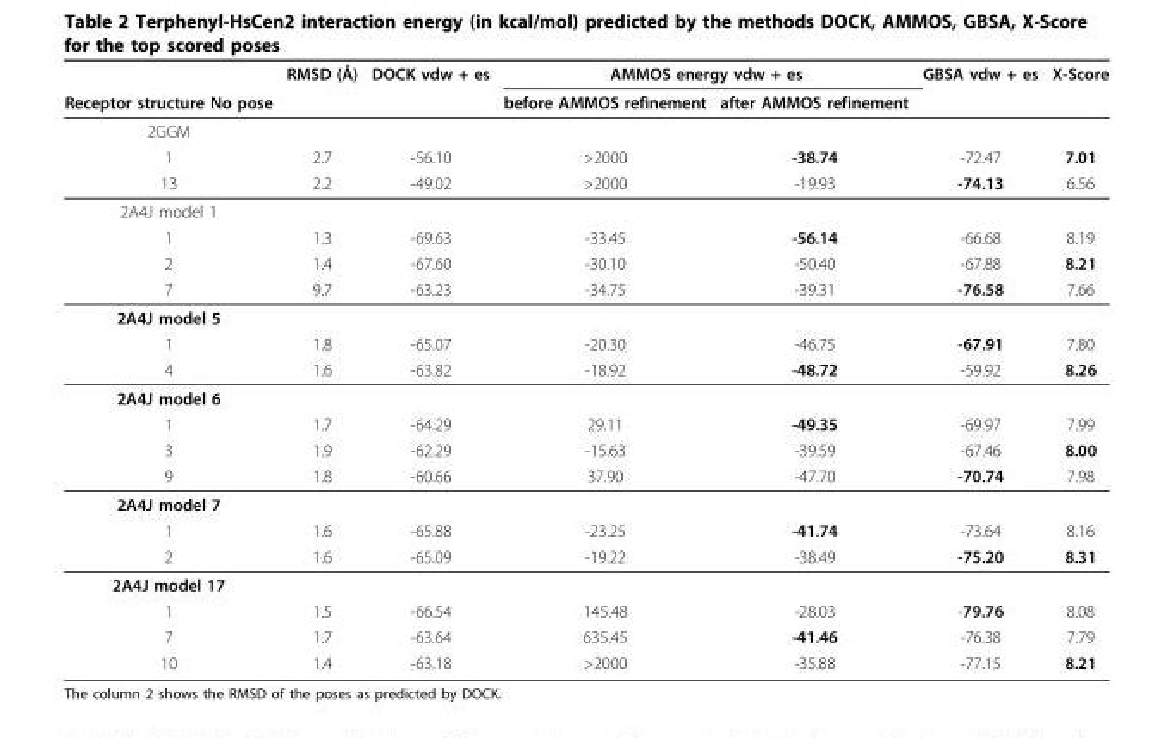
<table><thead><tr><td rowspan="2">Receptor structure No pose</td><td rowspan="2">RMSD (Å)</td><td rowspan="2">DOCK vdw + es</td><td colspan="2">AMMOS energy vdw + es</td><td rowspan="2">GBSA vdw + es</td><td rowspan="2">X-Score</td></tr><tr><td>before AMMOS refinement</td><td>after AMMOS refinement</td></tr></thead><tbody><tr><td colspan="7">2GGM</td></tr><tr><td>1</td><td>2.7</td><td>-56.10</td><td>&gt;2000</td><td>-38.74</td><td>-72.47</td><td>7.01</td></tr><tr><td>13</td><td>2.2</td><td>-49.02</td><td>&gt;2000</td><td>-19.93</td><td>-74.13</td><td>6.56</td></tr><tr><td colspan="7">2A4J model 1</td></tr><tr><td>1</td><td>1.3</td><td>-69.63</td><td>-33.45</td><td>-56.14</td><td>-66.68</td><td>8.19</td></tr><tr><td>2</td><td>1.4</td><td>-67.60</td><td>-30.10</td><td>-50.40</td><td>-67.88</td><td>8.21</td></tr><tr><td>7</td><td>9.7</td><td>-63.23</td><td>-34.75</td><td>-39.31</td><td>-76.58</td><td>7.66</td></tr><tr><td colspan="7">2A4J model 5</td></tr><tr><td>1</td><td>1.8</td><td>-65.07</td><td>-20.30</td><td>-46.75</td><td>-67.91</td><td>7.80</td></tr><tr><td>4</td><td>1.6</td><td>-63.82</td><td>-18.92</td><td>-48.72</td><td>-59.92</td><td>8.26</td></tr><tr><td colspan="7">2A4J model 6</td></tr><tr><td>1</td><td>1.7</td><td>-64.29</td><td>29.11</td><td>-49.35</td><td>-69.97</td><td>7.99</td></tr><tr><td>3</td><td>1.9</td><td>-62.29</td><td>-15.63</td><td>-39.59</td><td>-67.46</td><td>8.00</td></tr><tr><td>9</td><td>1.8</td><td>-60.66</td><td>37.90</td><td>-47.70</td><td>-70.74</td><td>7.98</td></tr><tr><td colspan="7">2A4J model 7</td></tr><tr><td>1</td><td>1.6</td><td>-65.88</td><td>-23.25</td><td>-41.74</td><td>-73.64</td><td>8.16</td></tr><tr><td>2</td><td>1.6</td><td>-65.09</td><td>-19.22</td><td>-38.49</td><td>-75.20</td><td>8.31</td></tr><tr><td colspan="7">2A4J model 17</td></tr><tr><td>1</td><td>1.5</td><td>-66.54</td><td>145.48</td><td>-28.03</td><td>-79.76</td><td>8.08</td></tr><tr><td>7</td><td>1.7</td><td>-63.64</td><td>635.45</td><td>-41.46</td><td>-76.38</td><td>7.79</td></tr><tr><td>10</td><td>1.4</td><td>-63.18</td><td>&gt;2000</td><td>-35.88</td><td>-77.15</td><td>8.21</td></tr></tbody></table>